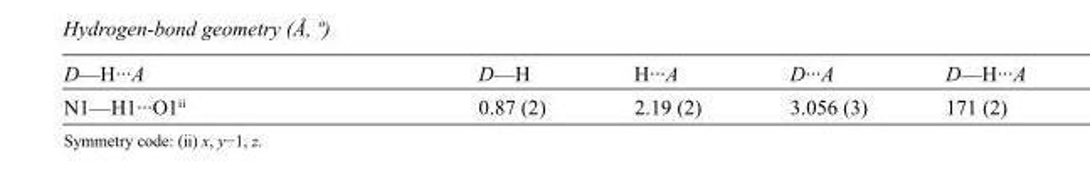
<table><tbody><tr><td>D—H···A</td><td>D—H</td><td>H···A</td><td>D···A</td><td>D—H···A</td></tr><tr><td>N1—H1···O1<sup>ii</sup></td><td>0.87 (2)</td><td>2.19 (2)</td><td>3.056 (3)</td><td>171 (2)</td></tr></tbody></table>